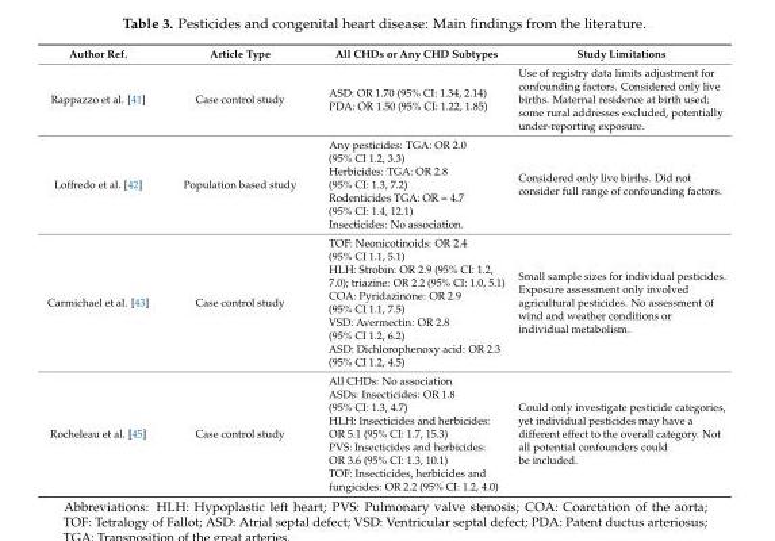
<table><thead><tr><td>Author Ref.</td><td>Article Type</td><td>All CHDs or Any CHD Subtypes</td><td>Study Limitations</td></tr></thead><tbody><tr><td>Rappazzo et al. [41]</td><td>Case control study</td><td>ASD: OR 1.70 (95% CI: 1.34, 2.14) PDA: OR 1.50 (95% CI: 1.22, 1.85)</td><td>Use of registry data limits adjustment for confounding factors. Considered only live births. Maternal residence at birth used; some rural addresses excluded, potentially under-reporting exposure.</td></tr><tr><td>Loffredo et al. [42]</td><td>Population based study</td><td>Any pesticides: TGA: OR 2.0 (95% CI 1.2, 3.3) Herbicides: TGA: OR 2.8 (95% CI: 1.3, 7.2) Rodenticides TGA: OR = 4.7 (95% CI: 1.4, 12.1) Insecticides: No association.</td><td>Considered only live births. Did not consider full range of confounding factors.</td></tr><tr><td>Carmichael et al. [43]</td><td>Case control study</td><td>TOF: Neonicotinoids: OR 2.4 (95% CI 1.1, 5.1) HLH: Strobin: OR 2.9 (95% CI: 1.2, 7.0); triazine: OR 2.2 (95% CI: 1.0, 5.1) COA: Pyridazinone: OR 2.9 (95% CI 1.1, 7.5) VSD: Avermectin: OR 2.8 (95% CI 1.2, 6.2) ASD: Dichlorophenoxy acid: OR 2.3 (95% CI 1.2, 4.5)</td><td>Small sample sizes for individual pesticides. Exposure assessment only involved agricultural pesticides. No assessment of wind and weather conditions or individual metabolism.</td></tr><tr><td>Rocheleau et al. [45]</td><td>Case control study</td><td>All CHDs: No association ASDs: Insecticides: OR 1.8 (95% CI: 1.3, 4.7) HLH: Insecticides and herbicides: OR 5.1 (95% CI: 1.7, 15.3) PVS: Insecticides and herbicides: OR 3.6 (95% CI: 1.3, 10.1) TOF: Insecticides, herbicides and fungicides: OR 2.2 (95% CI: 1.2, 4.0)</td><td>Could only investigate pesticide categories, yet individual pesticides may have a different effect to the overall category. Not all potential confounders could be included.</td></tr></tbody></table>